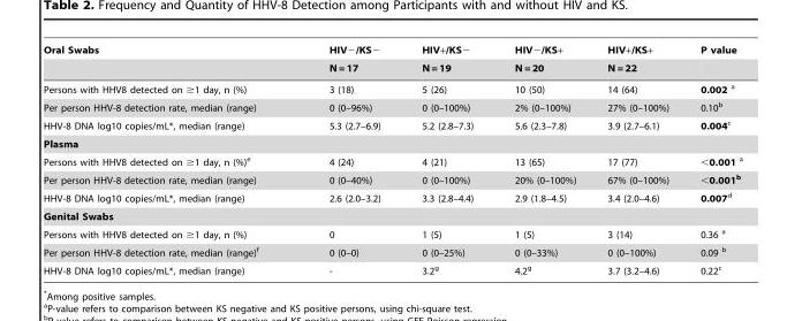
<table><thead><tr><td rowspan="2">Oral Swabs</td><td rowspan="2">HIV−/KS− N = 17</td><td rowspan="2">HIV+/KS− N = 19</td><td rowspan="2">HIV−/KS+ N = 20</td><td rowspan="2">HIV+/KS+ N = 22</td><td rowspan="2">P value</td></tr><tr></tr></thead><tbody><tr><td>Persons with HHV8 detected on ≥1 day, n (%)</td><td>3 (18)</td><td>5 (26)</td><td>10 (50)</td><td>14 (64)</td><td>0.002 a</td></tr><tr><td>Per person HHV-8 detection rate, median (range)</td><td>0 (0–96%)</td><td>0 (0–100%)</td><td>2% (0–100%)</td><td>27% (0–100%)</td><td>0.10<sup>b</sup></td></tr><tr><td>HHV-8 DNA log10 copies/mL*, median (range)</td><td>5.3 (2.7–6.9)</td><td>5.2 (2.8–7.3)</td><td>5.6 (2.3–7.8)</td><td>3.9 (2.7–6.1)</td><td>0.004c</td></tr><tr><td colspan="6">Plasma</td></tr><tr><td>Persons with HHV8 detected on ≥1 day, n (%)<sup>e</sup></td><td>4 (24)</td><td>4 (21)</td><td>13 (65)</td><td>17 (77)</td><td>&lt;0.001 a</td></tr><tr><td>Per person HHV-8 detection rate, median (range)</td><td>0 (0–40%)</td><td>0 (0–100%)</td><td>20% (0–100%)</td><td>67% (0–100%)</td><td>&lt;0.001b</td></tr><tr><td>HHV-8 DNA log10 copies/mL*, median (range)</td><td>2.6 (2.0–3.2)</td><td>3.3 (2.8–4.4)</td><td>2.9 (1.8–4.5)</td><td>3.4 (2.0–4.6)</td><td>0.007d</td></tr><tr><td colspan="6">Genital Swabs</td></tr><tr><td>Persons with HHV8 detected on ≥1 day, n (%)</td><td>0</td><td>1 (5)</td><td>1 (5)</td><td>3 (14)</td><td>0.36 a</td></tr><tr><td>Per person HHV-8 detection rate, median (range)<sup>f</sup></td><td>0 (0–0)</td><td>0 (0–25%)</td><td>0 (0–33%)</td><td>0 (0–100%)</td><td>0.09 b</td></tr><tr><td>HHV-8 DNA log10 copies/mL*, median (range)</td><td>-</td><td>3.2<sup>g</sup></td><td>4.2<sup>g</sup></td><td>3.7 (3.2–4.6)</td><td>0.22<sup>c</sup></td></tr></tbody></table>